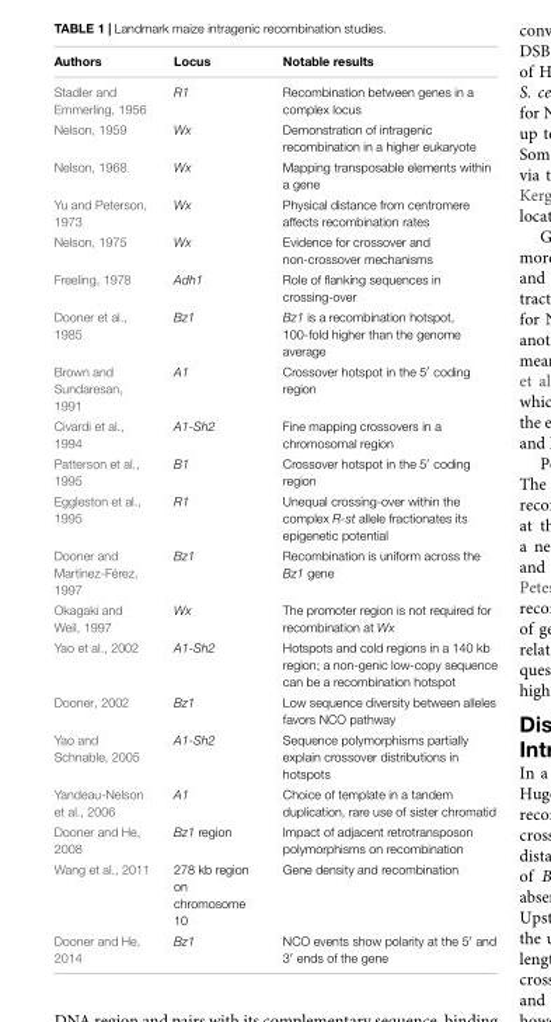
<table><thead><tr><td>Authors</td><td>Locus</td><td>Notable results</td></tr></thead><tbody><tr><td>Stadler and Emmerling, 1956</td><td>R1</td><td>Recombination between genes in a complex locus</td></tr><tr><td>Nelson, 1959</td><td>Wx</td><td>Demonstration of intragenic recombination in a higher eukaryote</td></tr><tr><td>Nelson, 1968</td><td>Wx</td><td>Mapping transposable elements within a gene</td></tr><tr><td>Yu and Peterson, 1973</td><td>Wx</td><td>Physical distance from centromere affects recombination rates</td></tr><tr><td>Nelson, 1975</td><td>Wx</td><td>Evidence for crossover and non-crossover mechanisms</td></tr><tr><td>Freeling, 1978</td><td>Adh1</td><td>Role of flanking sequences in crossing-over</td></tr><tr><td>Dooner et al., 1985</td><td>Bz1</td><td>Bz1 is a recombination hotspot, 100-fold higher than the genome average</td></tr><tr><td>Brown and Sundaresan, 1991</td><td>A1</td><td>Crossover hotspot in the 5′ coding region</td></tr><tr><td>Civardi et al., 1994</td><td>A1-Sh2</td><td>Fine mapping crossovers in a chromosomal region</td></tr><tr><td>Patterson et al., 1995</td><td>B1</td><td>Crossover hotspot in the 5′ coding region</td></tr><tr><td>Eggleston et al., 1995</td><td>R1</td><td>Unequal crossing-over within the complex R-st allele fractionates its epigenetic potential</td></tr><tr><td>Dooner and Martínez-Férez, 1997</td><td>Bz1</td><td>Recombination is uniform across the Bz1 gene</td></tr><tr><td>Okagaki and Weil, 1997</td><td>Wx</td><td>The promoter region is not required for recombination at Wx</td></tr><tr><td>Yao et al., 2002</td><td>A1-Sh2</td><td>Hotspots and cold regions in a 140 kb region; a non-genic low-copy sequence can be a recombination hotspot</td></tr><tr><td>Dooner, 2002</td><td>Bz1</td><td>Low sequence diversity between alleles favors NCO pathway</td></tr><tr><td>Yao and Schnable, 2005</td><td>A1-Sh2</td><td>Sequence polymorphisms partially explain crossover distributions in hotspots</td></tr><tr><td>Yandeau-Nelson et al., 2006</td><td>A1</td><td>Choice of template in a tandem duplication, rare use of sister chromatid</td></tr><tr><td>Dooner and He, 2008</td><td>Bz1 region</td><td>Impact of adjacent retrotransposon polymorphisms on recombination</td></tr><tr><td>Wang et al., 2011</td><td>278 kb region on chromosome 10</td><td>Gene density and recombination</td></tr><tr><td>Dooner and He, 2014</td><td>Bz1</td><td>NCO events show polarity at the 5′ and 3′ ends of the gene</td></tr></tbody></table>